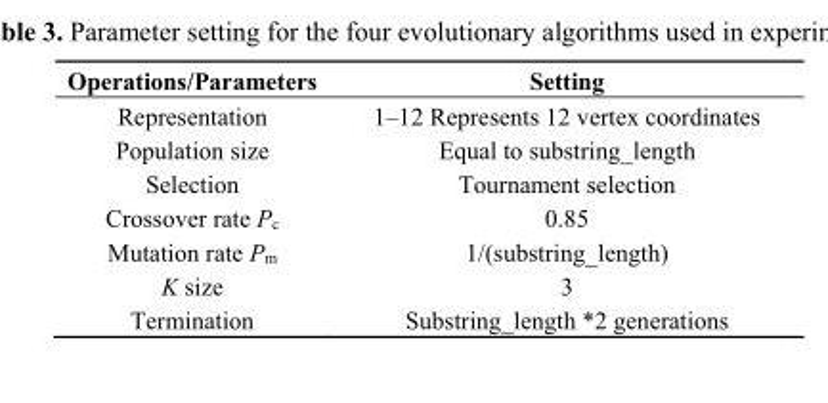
<table><thead><tr><td>Operations/Parameters</td><td>Setting</td></tr></thead><tbody><tr><td>Representation</td><td>1–12 Represents 12 vertex coordinates</td></tr><tr><td>Population size</td><td>Equal to substring_length</td></tr><tr><td>Selection</td><td>Tournament selection</td></tr><tr><td>Crossover rate P<sub>c</sub></td><td>0.85</td></tr><tr><td>Mutation rate P<sub>m</sub></td><td>1/(substring_length)</td></tr><tr><td>K size</td><td>3</td></tr><tr><td>Termination</td><td>Substring_length *2 generations</td></tr></tbody></table>